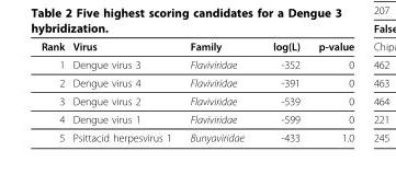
<table><thead><tr><td>Rank</td><td>Virus</td><td>Family</td><td>log(L)</td><td>p-value</td></tr></thead><tbody><tr><td>1</td><td>Dengue virus 3</td><td>Flaviviridae</td><td>-352</td><td>0</td></tr><tr><td>2</td><td>Dengue virus 4</td><td>Flaviviridae</td><td>-391</td><td>0</td></tr><tr><td>3</td><td>Dengue virus 2</td><td>Flaviviridae</td><td>-539</td><td>0</td></tr><tr><td>4</td><td>Dengue virus 1</td><td>Flaviviridae</td><td>-599</td><td>0</td></tr><tr><td>5</td><td>Psittacid herpesvirus 1</td><td>Bunyaviridae</td><td>-433</td><td>1.0</td></tr></tbody></table>